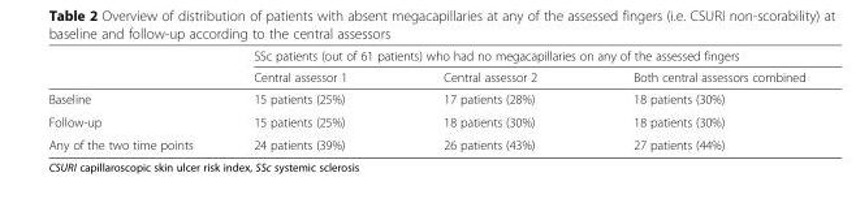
<table><thead><tr><td rowspan="2"></td><td colspan="3">SSc patients (out of 61 patients) who had no megacapillaries on any of the assessed fingers</td></tr><tr><td>Central assessor 1</td><td>Central assessor 2</td><td>Both central assessors combined</td></tr></thead><tbody><tr><td>Baseline</td><td>15 patients (25%)</td><td>17 patients (28%)</td><td>18 patients (30%)</td></tr><tr><td>Follow-up</td><td>15 patients (25%)</td><td>18 patients (30%)</td><td>18 patients (30%)</td></tr><tr><td>Any of the two time points</td><td>24 patients (39%)</td><td>26 patients (43%)</td><td>27 patients (44%)</td></tr></tbody></table>